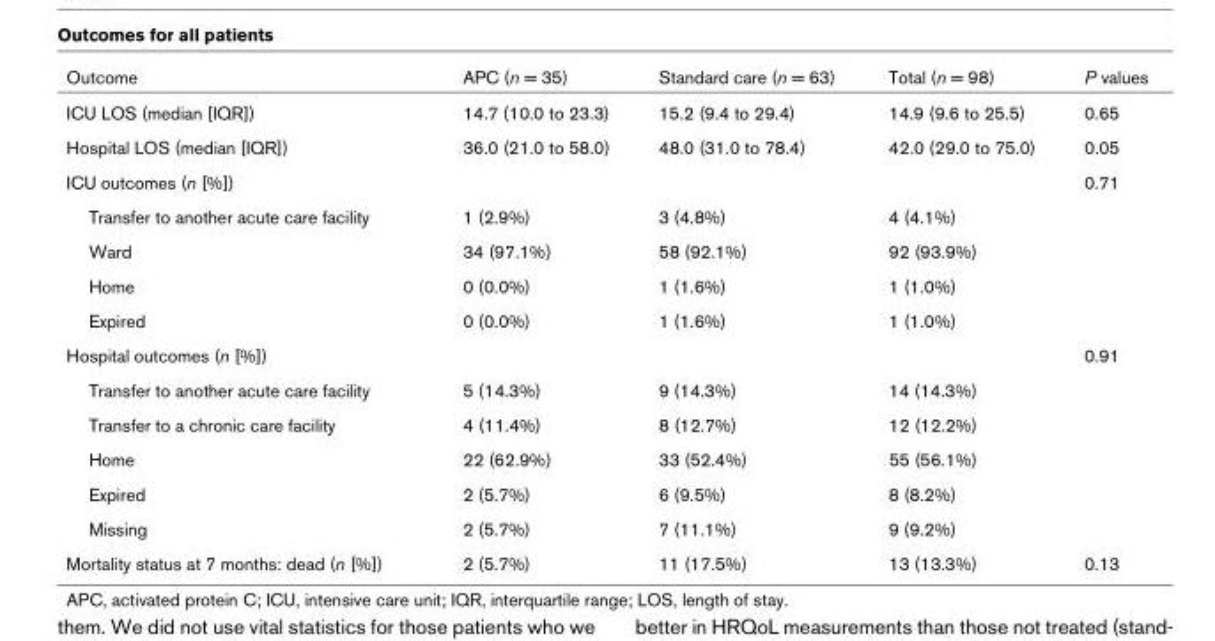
<table><thead><tr><td>Outcome</td><td>APC (n = 35)</td><td>Standard care (n = 63)</td><td>Total (n = 98)</td><td>P values</td></tr></thead><tbody><tr><td>ICU LOS (median [IQR])</td><td>14.7 (10.0 to 23.3)</td><td>15.2 (9.4 to 29.4)</td><td>14.9 (9.6 to 25.5)</td><td>0.65</td></tr><tr><td>Hospital LOS (median [IQR])</td><td>36.0 (21.0 to 58.0)</td><td>48.0 (31.0 to 78.4)</td><td>42.0 (29.0 to 75.0)</td><td>0.05</td></tr><tr><td>ICU outcomes (n [%])</td><td></td><td></td><td></td><td>0.71</td></tr><tr><td>Transfer to another acute care facility</td><td>1 (2.9%)</td><td>3 (4.8%)</td><td>4 (4.1%)</td><td></td></tr><tr><td>Ward</td><td>34 (97.1%)</td><td>58 (92.1%)</td><td>92 (93.9%)</td><td></td></tr><tr><td>Home</td><td>0 (0.0%)</td><td>1 (1.6%)</td><td>1 (1.0%)</td><td></td></tr><tr><td>Expired</td><td>0 (0.0%)</td><td>1 (1.6%)</td><td>1 (1.0%)</td><td></td></tr><tr><td>Hospital outcomes (n [%])</td><td></td><td></td><td></td><td>0.91</td></tr><tr><td>Transfer to another acute care facility</td><td>5 (14.3%)</td><td>9 (14.3%)</td><td>14 (14.3%)</td><td></td></tr><tr><td>Transfer to a chronic care facility</td><td>4 (11.4%)</td><td>8 (12.7%)</td><td>12 (12.2%)</td><td></td></tr><tr><td>Home</td><td>22 (62.9%)</td><td>33 (52.4%)</td><td>55 (56.1%)</td><td></td></tr><tr><td>Expired</td><td>2 (5.7%)</td><td>6 (9.5%)</td><td>8 (8.2%)</td><td></td></tr><tr><td>Missing</td><td>2 (5.7%)</td><td>7 (11.1%)</td><td>9 (9.2%)</td><td></td></tr><tr><td>Mortality status at 7 months: dead (n [%])</td><td>2 (5.7%)</td><td>11 (17.5%)</td><td>13 (13.3%)</td><td>0.13</td></tr></tbody></table>